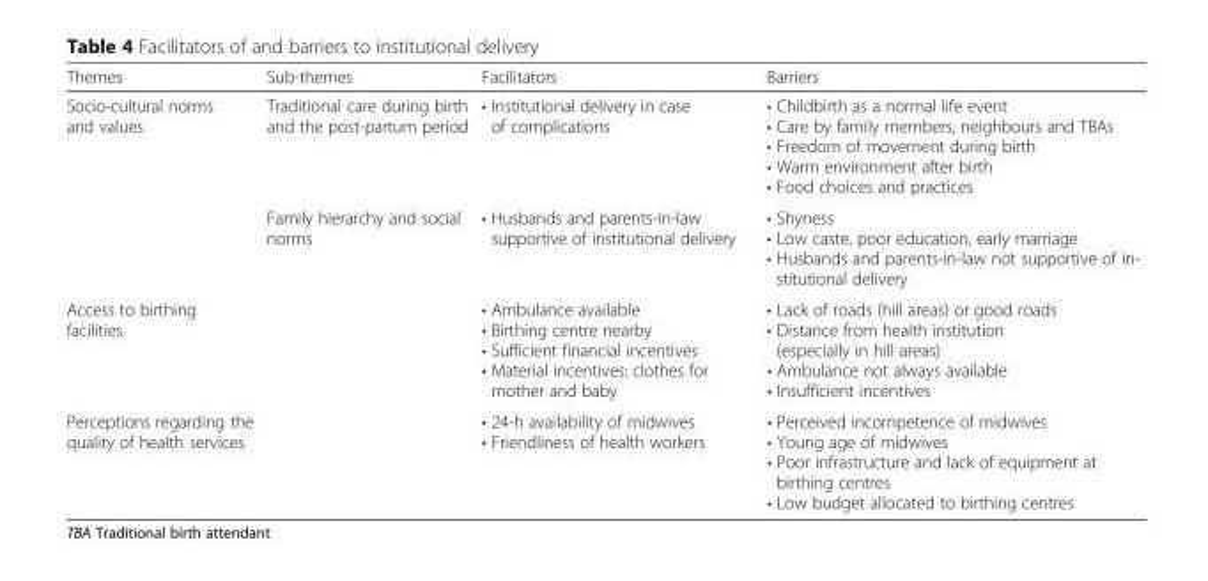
<table><thead><tr><td>Themes</td><td>Sub-themes</td><td>Facilitators</td><td>Barriers</td></tr></thead><tbody><tr><td rowspan="2">Socio-cultural norms and values</td><td>Traditional care during birth and the post-partum period</td><td>• Institutional delivery in case of complications</td><td>• Childbirth as a normal life event • Care by family members, neighbours and TBAs • Freedom of movement during birth • Warm environment after birth • Food choices and practices</td></tr><tr><td>Family hierarchy and social norms</td><td>• Husbands and parents-in-law supportive of institutional delivery</td><td>• Shyness • Low caste, poor education, early marriage • Husbands and parents-in-law not supportive of in- stitutional delivery</td></tr><tr><td>Access to birthing facilities</td><td></td><td>• Ambulance available • Birthing centre nearby • Sufficient financial incentives • Material incentives: clothes for mother and baby</td><td>• Lack of roads (hill areas) or good roads • Distance from health institution (especially in hill areas) • Ambulance not always available • Insufficient incentives</td></tr><tr><td>Perceptions regarding the quality of health services</td><td></td><td>• 24-h availability of midwives • Friendliness of health workers</td><td>• Perceived incompetence of midwives • Young age of midwives • Poor infrastructure and lack of equipment at birthing centres • Low budget allocated to birthing centres</td></tr></tbody></table>